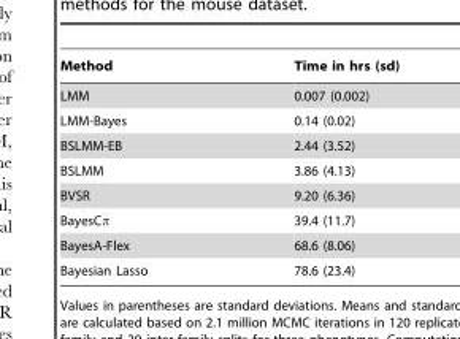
<table><thead><tr><td>Method</td><td>Time in hrs (sd)</td></tr></thead><tbody><tr><td>LMM</td><td>0.007 (0.002)</td></tr><tr><td>LMM-Bayes</td><td>0.14 (0.02)</td></tr><tr><td>BSLMM-EB</td><td>2.44 (3.52)</td></tr><tr><td>BSLMM</td><td>3.86 (4.13)</td></tr><tr><td>BVSR</td><td>9.20 (6.36)</td></tr><tr><td>BayesCp</td><td>39.4 (11.7)</td></tr><tr><td>BayesA-Flex</td><td>68.6 (8.06)</td></tr><tr><td>Bayesian Lasso</td><td>78.6 (23.4)</td></tr></tbody></table>